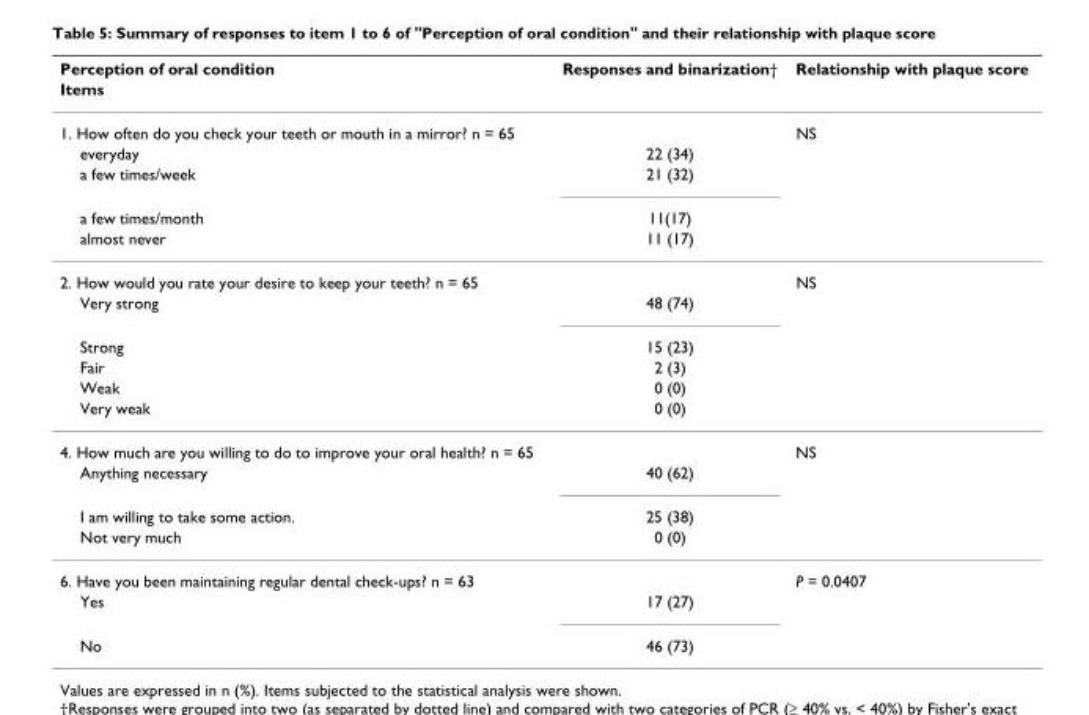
<table><thead><tr><td rowspan="2">Perception of oral condition Items</td><td rowspan="2">Responses and binarization†</td><td rowspan="2">Relationship with plaque score</td></tr><tr></tr></thead><tbody><tr><td>1. How often do you check your teeth or mouth in a mirror? n = 65</td><td></td><td>NS</td></tr><tr><td>everyday</td><td>22 (34)</td><td></td></tr><tr><td>a few times/week</td><td>21 (32)</td><td></td></tr><tr><td>a few times/month</td><td>11(17)</td><td></td></tr><tr><td>almost never</td><td>11 (17)</td><td></td></tr><tr><td>2. How would you rate your desire to keep your teeth? n = 65</td><td></td><td>NS</td></tr><tr><td>Very strong</td><td>48 (74)</td><td></td></tr><tr><td>Strong</td><td>15 (23)</td><td></td></tr><tr><td>Fair</td><td>2 (3)</td><td></td></tr><tr><td>Weak</td><td>0 (0)</td><td></td></tr><tr><td>Very weak</td><td>0 (0)</td><td></td></tr><tr><td>4. How much are you willing to do to improve your oral health? n = 65</td><td></td><td>NS</td></tr><tr><td>Anything necessary</td><td>40 (62)</td><td></td></tr><tr><td>I am willing to take some action.</td><td>25 (38)</td><td></td></tr><tr><td>Not very much</td><td>0 (0)</td><td></td></tr><tr><td>6. Have you been maintaining regular dental check-ups? n = 63</td><td></td><td>P = 0.0407</td></tr><tr><td>Yes</td><td>17 (27)</td><td></td></tr><tr><td>No</td><td>46 (73)</td><td></td></tr></tbody></table>